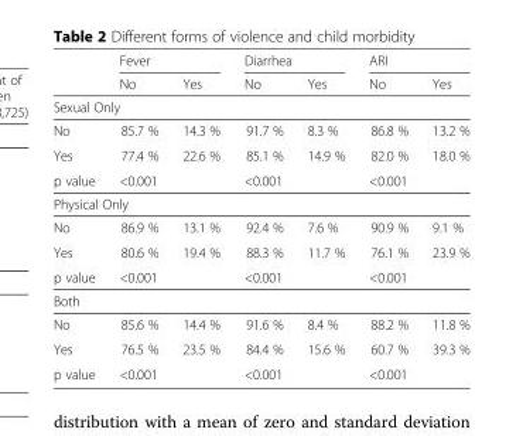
<table><thead><tr><td rowspan="2"></td><td colspan="2">Fever</td><td colspan="2">Diarrhea</td><td colspan="2">ARI</td></tr><tr><td>No</td><td>Yes</td><td>No</td><td>Yes</td><td>No</td><td>Yes</td></tr></thead><tbody><tr><td colspan="7">Sexual Only</td></tr><tr><td>No</td><td>85.7 %</td><td>14.3 %</td><td>91.7 %</td><td>8.3 %</td><td>86.8 %</td><td>13.2 %</td></tr><tr><td>Yes</td><td>77.4 %</td><td>22.6 %</td><td>85.1 %</td><td>14.9 %</td><td>82.0 %</td><td>18.0 %</td></tr><tr><td>p value</td><td>&lt;0.001</td><td></td><td>&lt;0.001</td><td></td><td>&lt;0.001</td><td></td></tr><tr><td colspan="7">Physical Only</td></tr><tr><td>No</td><td>86.9 %</td><td>13.1 %</td><td>92.4 %</td><td>7.6 %</td><td>90.9 %</td><td>9.1 %</td></tr><tr><td>Yes</td><td>80.6 %</td><td>19.4 %</td><td>88.3 %</td><td>11.7 %</td><td>76.1 %</td><td>23.9 %</td></tr><tr><td>p value</td><td>&lt;0.001</td><td></td><td>&lt;0.001</td><td></td><td>&lt;0.001</td><td></td></tr><tr><td colspan="7">Both</td></tr><tr><td>No</td><td>85.6 %</td><td>14.4 %</td><td>91.6 %</td><td>8.4 %</td><td>88.2 %</td><td>11.8 %</td></tr><tr><td>Yes</td><td>76.5 %</td><td>23.5 %</td><td>84.4 %</td><td>15.6 %</td><td>60.7 %</td><td>39.3 %</td></tr><tr><td>p value</td><td colspan="2">&lt;0.001</td><td colspan="2">&lt;0.001</td><td colspan="2">&lt;0.001</td></tr></tbody></table>